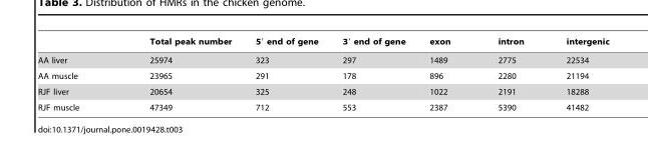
<table><thead><tr><td></td><td>Total peak number</td><td>5′ end of gene</td><td>3′ end of gene</td><td>exon</td><td>intron</td><td>intergenic</td></tr></thead><tbody><tr><td>AA liver</td><td>25974</td><td>323</td><td>297</td><td>1489</td><td>2775</td><td>22534</td></tr><tr><td>AA muscle</td><td>23965</td><td>291</td><td>178</td><td>896</td><td>2280</td><td>21194</td></tr><tr><td>RJF liver</td><td>20654</td><td>325</td><td>248</td><td>1022</td><td>2191</td><td>18288</td></tr><tr><td>RJF muscle</td><td>47349</td><td>712</td><td>553</td><td>2387</td><td>5390</td><td>41482</td></tr></tbody></table>